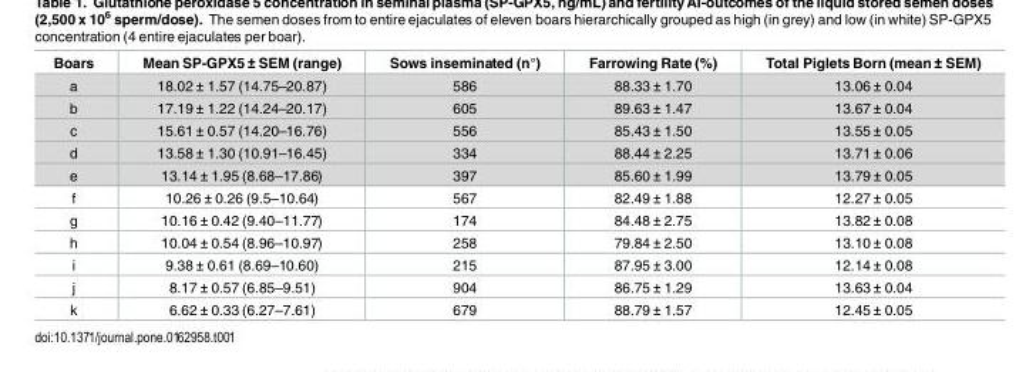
<table><thead><tr><td>Boars</td><td>Mean SP-GPX5 ± SEM (range)</td><td>Sows inseminated (n°)</td><td>Farrowing Rate (%)</td><td>Total Piglets Born (mean ± SEM)</td></tr></thead><tbody><tr><td>a</td><td>18.02 ± 1.57 (14.75–20.87)</td><td>586</td><td>88.33 ± 1.70</td><td>13.06 ± 0.04</td></tr><tr><td>b</td><td>17.19 ± 1.22 (14.24–20.17)</td><td>605</td><td>89.63 ± 1.47</td><td>13.67 ± 0.04</td></tr><tr><td>c</td><td>15.61 ± 0.57 (14.20–16.76)</td><td>556</td><td>85.43 ± 1.50</td><td>13.55 ± 0.05</td></tr><tr><td>d</td><td>13.58 ± 1.30 (10.91–16.45)</td><td>334</td><td>88.44 ± 2.25</td><td>13.71 ± 0.06</td></tr><tr><td>e</td><td>13.14 ± 1.95 (8.68–17.86)</td><td>397</td><td>85.60 ± 1.99</td><td>13.79 ± 0.05</td></tr><tr><td>f</td><td>10.26 ± 0.26 (9.5–10.64)</td><td>567</td><td>82.49 ± 1.88</td><td>12.27 ± 0.05</td></tr><tr><td>g</td><td>10.16 ± 0.42 (9.40–11.77)</td><td>174</td><td>84.48 ± 2.75</td><td>13.82 ± 0.08</td></tr><tr><td>h</td><td>10.04 ± 0.54 (8.96–10.97)</td><td>258</td><td>79.84 ± 2.50</td><td>13.10 ± 0.08</td></tr><tr><td>i</td><td>9.38 ± 0.61 (8.69–10.60)</td><td>215</td><td>87.95 ± 3.00</td><td>12.14 ± 0.08</td></tr><tr><td>j</td><td>8.17 ± 0.57 (6.85–9.51)</td><td>904</td><td>86.75 ± 1.29</td><td>13.63 ± 0.04</td></tr><tr><td>k</td><td>6.62 ± 0.33 (6.27–7.61)</td><td>679</td><td>88.79 ± 1.57</td><td>12.45 ± 0.05</td></tr></tbody></table>